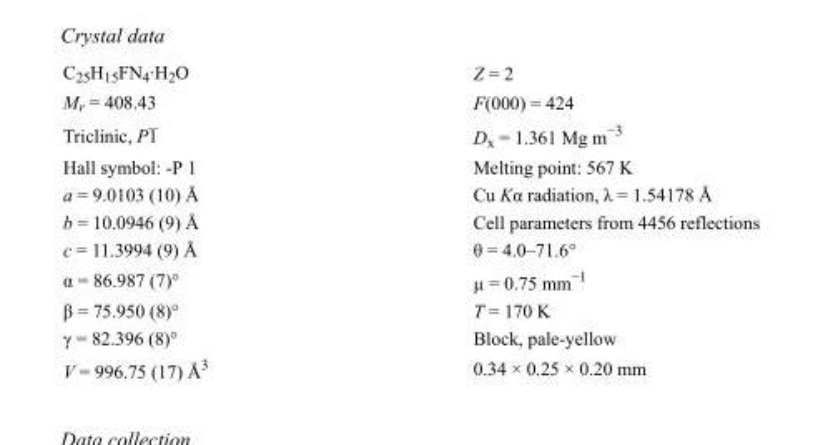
<table><tbody><tr><td>C<sub>25</sub>H<sub>15</sub>FN<sub>4</sub>·H<sub>2</sub>O</td><td>Z = 2</td></tr><tr><td>M<sub>r</sub> = 408.43</td><td>F(000) = 424</td></tr><tr><td>Triclinic, P1</td><td>D<sub>x</sub> = 1.361 Mg m<sup>−3</sup></td></tr><tr><td>Hall symbol: -P 1</td><td>Melting point: 567 K</td></tr><tr><td>a = 9.0103 (10) Å</td><td>Cu Kα radiation, λ = 1.54178 Å</td></tr><tr><td>b = 10.0946 (9) Å</td><td>Cell parameters from 4456 reflections</td></tr><tr><td>c = 11.3994 (9) Å</td><td>θ = 4.0–71.6°</td></tr><tr><td>α = 86.987 (7)°</td><td>µ = 0.75 mm<sup>−1</sup></td></tr><tr><td>β = 75.950 (8)°</td><td>T = 170 K</td></tr><tr><td>γ = 82.396 (8)°</td><td>Block, pale-yellow</td></tr><tr><td>V = 996.75 (17) Å<sup>3</sup></td><td>0.34 × 0.25 × 0.20 mm</td></tr></tbody></table>